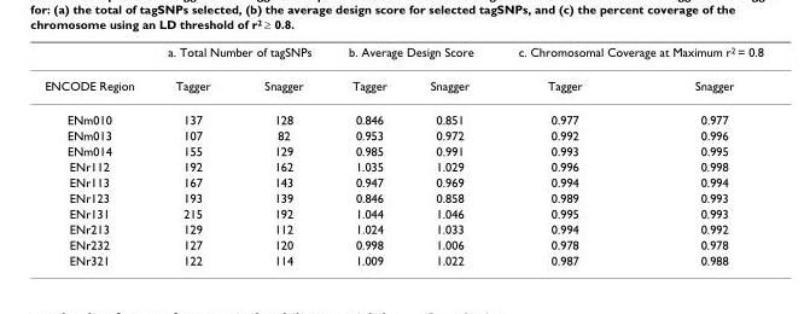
<table><thead><tr><td rowspan="2">ENCODE Region</td><td colspan="2">a. Total Number of tagSNPs</td><td colspan="2">b. Average Design Score</td><td colspan="2">c. Chromosomal Coverage at Maximum r<sup>2</sup> = 0.8</td></tr><tr><td>Tagger</td><td>Snagger</td><td>Tagger</td><td>Snagger</td><td>Tagger</td><td>Snagger</td></tr></thead><tbody><tr><td>ENm010</td><td>137</td><td>128</td><td>0.846</td><td>0.851</td><td>0.977</td><td>0.977</td></tr><tr><td>ENm013</td><td>107</td><td>82</td><td>0.953</td><td>0.972</td><td>0.992</td><td>0.996</td></tr><tr><td>ENm014</td><td>155</td><td>129</td><td>0.985</td><td>0.991</td><td>0.993</td><td>0.995</td></tr><tr><td>ENr112</td><td>192</td><td>162</td><td>1.035</td><td>1.029</td><td>0.996</td><td>0.998</td></tr><tr><td>ENr113</td><td>167</td><td>143</td><td>0.947</td><td>0.969</td><td>0.994</td><td>0.994</td></tr><tr><td>ENr123</td><td>193</td><td>139</td><td>0.846</td><td>0.858</td><td>0.989</td><td>0.993</td></tr><tr><td>ENr131</td><td>215</td><td>192</td><td>1.044</td><td>1.046</td><td>0.995</td><td>0.993</td></tr><tr><td>ENr213</td><td>129</td><td>112</td><td>1.024</td><td>1.033</td><td>0.994</td><td>0.992</td></tr><tr><td>ENr232</td><td>127</td><td>120</td><td>0.998</td><td>1.006</td><td>0.978</td><td>0.978</td></tr><tr><td>ENr321</td><td>122</td><td>114</td><td>1.009</td><td>1.022</td><td>0.987</td><td>0.988</td></tr></tbody></table>